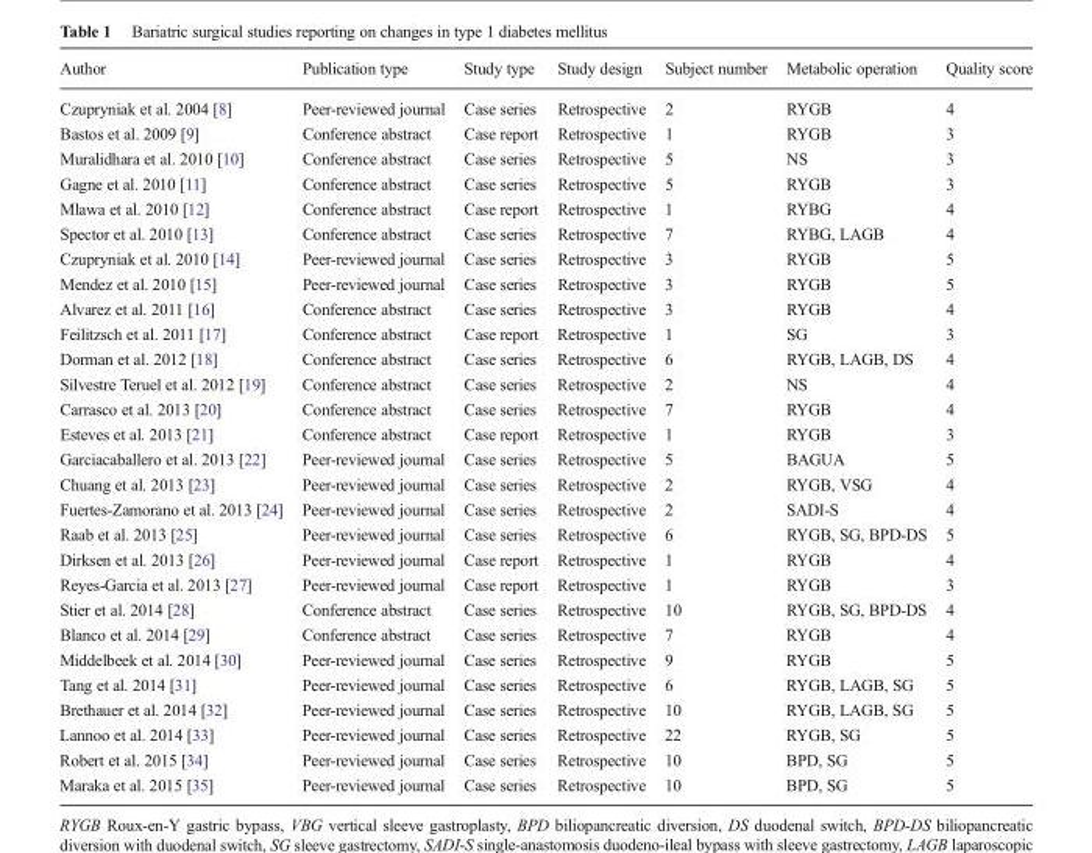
<table><thead><tr><td>Author</td><td>Publication type</td><td>Study type</td><td>Study design</td><td>Subject number</td><td>Metabolic operation</td><td>Quality score</td></tr></thead><tbody><tr><td>Czupryniak et al. 2004 [8]</td><td>Peer-reviewed journal</td><td>Case series</td><td>Retrospective</td><td>2</td><td>RYGB</td><td>4</td></tr><tr><td>Bastos et al. 2009 [9]</td><td>Conference abstract</td><td>Case report</td><td>Retrospective</td><td>1</td><td>RYGB</td><td>3</td></tr><tr><td>Muralidhara et al. 2010 [10]</td><td>Conference abstract</td><td>Case series</td><td>Retrospective</td><td>5</td><td>NS</td><td>3</td></tr><tr><td>Gagne et al. 2010 [11]</td><td>Conference abstract</td><td>Case series</td><td>Retrospective</td><td>5</td><td>RYGB</td><td>3</td></tr><tr><td>Mlawa et al. 2010 [12]</td><td>Conference abstract</td><td>Case report</td><td>Retrospective</td><td>1</td><td>RYBG</td><td>4</td></tr><tr><td>Spector et al. 2010 [13]</td><td>Conference abstract</td><td>Case series</td><td>Retrospective</td><td>7</td><td>RYBG, LAGB</td><td>4</td></tr><tr><td>Czupryniak et al. 2010 [14]</td><td>Peer-reviewed journal</td><td>Case series</td><td>Retrospective</td><td>3</td><td>RYGB</td><td>5</td></tr><tr><td>Mendez et al. 2010 [15]</td><td>Peer-reviewed journal</td><td>Case series</td><td>Retrospective</td><td>3</td><td>RYGB</td><td>5</td></tr><tr><td>Alvarez et al. 2011 [16]</td><td>Conference abstract</td><td>Case series</td><td>Retrospective</td><td>3</td><td>RYGB</td><td>4</td></tr><tr><td>Feilitzsch et al. 2011 [17]</td><td>Conference abstract</td><td>Case report</td><td>Retrospective</td><td>1</td><td>SG</td><td>3</td></tr><tr><td>Dorman et al. 2012 [18]</td><td>Conference abstract</td><td>Case series</td><td>Retrospective</td><td>6</td><td>RYGB, LAGB, DS</td><td>4</td></tr><tr><td>Silvestre Teruel et al. 2012 [19]</td><td>Conference abstract</td><td>Case series</td><td>Retrospective</td><td>2</td><td>NS</td><td>4</td></tr><tr><td>Carrasco et al. 2013 [20]</td><td>Conference abstract</td><td>Case series</td><td>Retrospective</td><td>7</td><td>RYGB</td><td>4</td></tr><tr><td>Esteves et al. 2013 [21]</td><td>Conference abstract</td><td>Case report</td><td>Retrospective</td><td>1</td><td>RYGB</td><td>3</td></tr><tr><td>Garciacaballero et al. 2013 [22]</td><td>Peer-reviewed journal</td><td>Case series</td><td>Retrospective</td><td>5</td><td>BAGUA</td><td>5</td></tr><tr><td>Chuang et al. 2013 [23]</td><td>Peer-reviewed journal</td><td>Case series</td><td>Retrospective</td><td>2</td><td>RYGB, VSG</td><td>4</td></tr><tr><td>Fuertes-Zamorano et al. 2013 [24]</td><td>Peer-reviewed journal</td><td>Case series</td><td>Retrospective</td><td>2</td><td>SADI-S</td><td>4</td></tr><tr><td>Raab et al. 2013 [25]</td><td>Peer-reviewed journal</td><td>Case series</td><td>Retrospective</td><td>6</td><td>RYGB, SG, BPD-DS</td><td>5</td></tr><tr><td>Dirksen et al. 2013 [26]</td><td>Peer-reviewed journal</td><td>Case report</td><td>Retrospective</td><td>1</td><td>RYGB</td><td>4</td></tr><tr><td>Reyes-Garcia et al. 2013 [27]</td><td>Peer-reviewed journal</td><td>Case report</td><td>Retrospective</td><td>1</td><td>RYGB</td><td>3</td></tr><tr><td>Stier et al. 2014 [28]</td><td>Conference abstract</td><td>Case series</td><td>Retrospective</td><td>10</td><td>RYGB, SG, BPD-DS</td><td>4</td></tr><tr><td>Blanco et al. 2014 [29]</td><td>Conference abstract</td><td>Case series</td><td>Retrospective</td><td>7</td><td>RYGB</td><td>4</td></tr><tr><td>Middelbeek et al. 2014 [30]</td><td>Peer-reviewed journal</td><td>Case series</td><td>Retrospective</td><td>9</td><td>RYGB</td><td>5</td></tr><tr><td>Tang et al. 2014 [31]</td><td>Peer-reviewed journal</td><td>Case series</td><td>Retrospective</td><td>6</td><td>RYGB, LAGB, SG</td><td>5</td></tr><tr><td>Brethauer et al. 2014 [32]</td><td>Peer-reviewed journal</td><td>Case series</td><td>Retrospective</td><td>10</td><td>RYGB, LAGB, SG</td><td>5</td></tr><tr><td>Lannoo et al. 2014 [33]</td><td>Peer-reviewed journal</td><td>Case series</td><td>Retrospective</td><td>22</td><td>RYGB, SG</td><td>5</td></tr><tr><td>Robert et al. 2015 [34]</td><td>Peer-reviewed journal</td><td>Case series</td><td>Retrospective</td><td>10</td><td>BPD, SG</td><td>5</td></tr><tr><td>Maraka et al. 2015 [35]</td><td>Peer-reviewed journal</td><td>Case series</td><td>Retrospective</td><td>10</td><td>BPD, SG</td><td>5</td></tr></tbody></table>